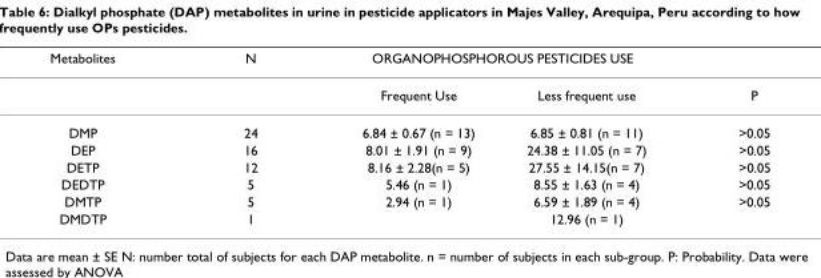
<table><thead><tr><td rowspan="2">Metabolites</td><td rowspan="2">N</td><td colspan="2">ORGANOPHOSPHOROUS PESTICIDES USE</td><td rowspan="2">P</td></tr><tr><td>Frequent Use</td><td>Less frequent use</td></tr></thead><tbody><tr><td>DMP</td><td>24</td><td>6.84 ± 0.67 (n = 13)</td><td>6.85 ± 0.81 (n = 11)</td><td>&gt;0.05</td></tr><tr><td>DEP</td><td>16</td><td>8.01 ± 1.91 (n = 9)</td><td>24.38 ± 11.05 (n = 7)</td><td>&gt;0.05</td></tr><tr><td>DETP</td><td>12</td><td>8.16 ± 2.28(n = 5)</td><td>27.55 ± 14.15(n = 7)</td><td>&gt;0.05</td></tr><tr><td>DEDTP</td><td>5</td><td>5.46 (n = 1)</td><td>8.55 ± 1.63 (n = 4)</td><td>&gt;0.05</td></tr><tr><td>DMTP</td><td>5</td><td>2.94 (n = 1)</td><td>6.59 ± 1.89 (n = 4)</td><td>&gt;0.05</td></tr><tr><td>DMDTP</td><td>1</td><td></td><td>12.96 (n = 1)</td><td></td></tr></tbody></table>